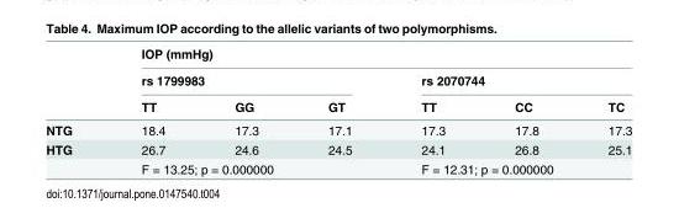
<table><thead><tr><td rowspan="3"></td><td colspan="6">IOP (mmHg)</td></tr><tr><td colspan="3">rs 1799983</td><td colspan="3">rs 2070744</td></tr><tr><td>TT</td><td>GG</td><td>GT</td><td>TT</td><td>CC</td><td>TC</td></tr></thead><tbody><tr><td>NTG</td><td>18.4</td><td>17.3</td><td>17.1</td><td>17.3</td><td>17.8</td><td>17.3</td></tr><tr><td rowspan="2">HTG</td><td>26.7</td><td>24.6</td><td>24.5</td><td>24.1</td><td>26.8</td><td>25.1</td></tr><tr><td colspan="3">F = 13.25; p = 0.000000</td><td colspan="3">F = 12.31; p = 0.000000</td></tr></tbody></table>